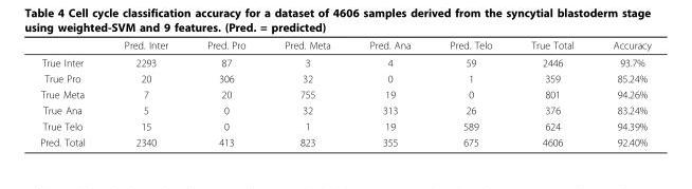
<table><thead><tr><td></td><td>Pred. Inter</td><td>Pred. Pro</td><td>Pred. Meta</td><td>Pred. Ana</td><td>Pred. Telo</td><td>True Total</td><td>Accuracy</td></tr></thead><tbody><tr><td>True Inter</td><td>2293</td><td>87</td><td>3</td><td>4</td><td>59</td><td>2446</td><td>93.7%</td></tr><tr><td>True Pro</td><td>20</td><td>306</td><td>32</td><td>0</td><td>1</td><td>359</td><td>85.24%</td></tr><tr><td>True Meta</td><td>7</td><td>20</td><td>755</td><td>19</td><td>0</td><td>801</td><td>94.26%</td></tr><tr><td>True Ana</td><td>5</td><td>0</td><td>32</td><td>313</td><td>26</td><td>376</td><td>83.24%</td></tr><tr><td>True Telo</td><td>15</td><td>0</td><td>1</td><td>19</td><td>589</td><td>624</td><td>94.39%</td></tr><tr><td>Pred. Total</td><td>2340</td><td>413</td><td>823</td><td>355</td><td>675</td><td>4606</td><td>92.40%</td></tr></tbody></table>